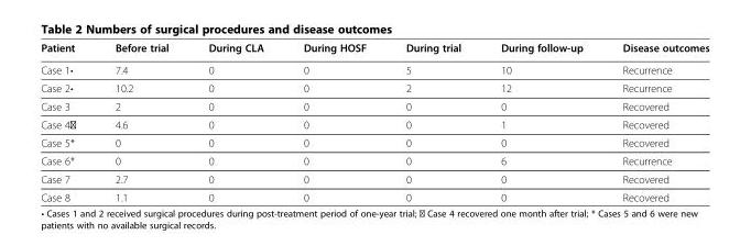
<table><thead><tr><td>Patient</td><td>Before trial</td><td>During CLA</td><td>During HOSF</td><td>During trial</td><td>During follow-up</td><td>Disease outcomes</td></tr></thead><tbody><tr><td>Case 1•</td><td>7.4</td><td>0</td><td>0</td><td>5</td><td>10</td><td>Recurrence</td></tr><tr><td>Case 2•</td><td>10.2</td><td>0</td><td>0</td><td>2</td><td>12</td><td>Recurrence</td></tr><tr><td>Case 3</td><td>2</td><td>0</td><td>0</td><td>0</td><td>0</td><td>Recovered</td></tr><tr><td>Case 4◦</td><td>4.6</td><td>0</td><td>0</td><td>0</td><td>1</td><td>Recovered</td></tr><tr><td>Case 5*</td><td>0</td><td>0</td><td>0</td><td>0</td><td>0</td><td>Recovered</td></tr><tr><td>Case 6*</td><td>0</td><td>0</td><td>0</td><td>0</td><td>6</td><td>Recurrence</td></tr><tr><td>Case 7</td><td>2.7</td><td>0</td><td>0</td><td>0</td><td>0</td><td>Recovered</td></tr><tr><td>Case 8</td><td>1.1</td><td>0</td><td>0</td><td>0</td><td>0</td><td>Recovered</td></tr></tbody></table>